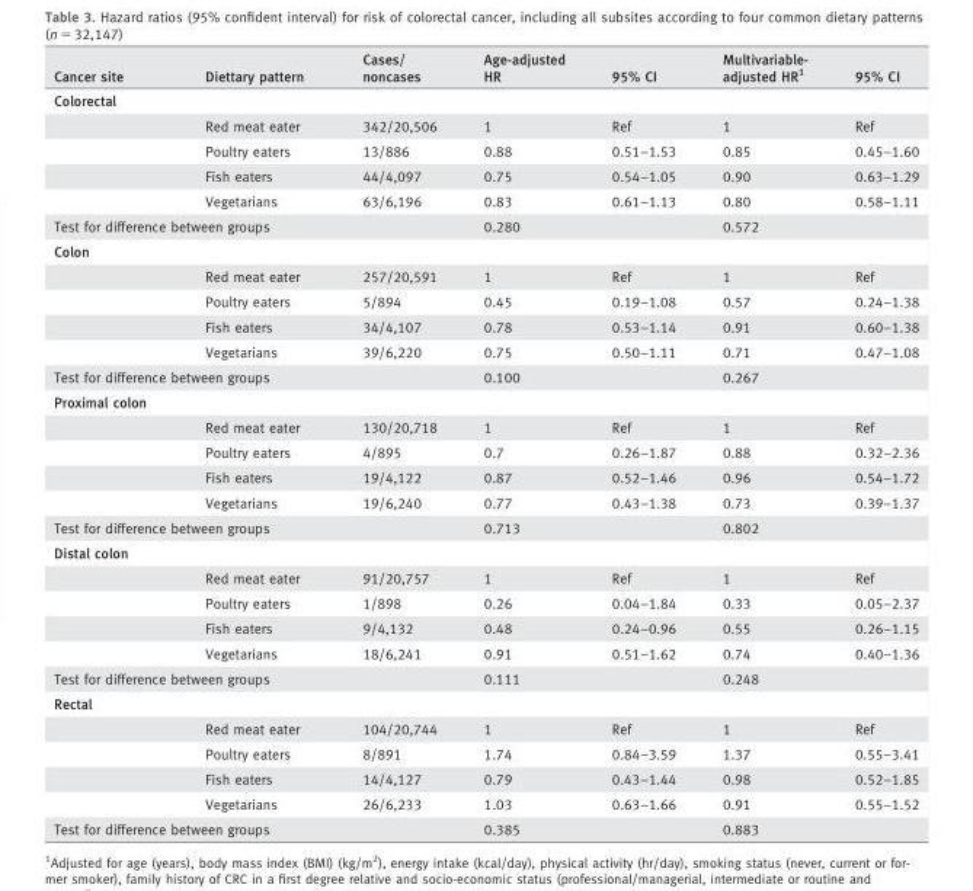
<table><thead><tr><td>Cancer site</td><td>Diettary pattern</td><td>Cases/ noncases</td><td>Age-adjusted HR</td><td>95% CI</td><td>Multivariable- adjusted HR1</td><td>95% CI</td></tr></thead><tbody><tr><td colspan="7">Colorectal</td></tr><tr><td></td><td>Red meat eater</td><td>342/20,506</td><td>1</td><td>Ref</td><td>1</td><td>Ref</td></tr><tr><td></td><td>Poultry eaters</td><td>13/886</td><td>0.88</td><td>0.51–1.53</td><td>0.85</td><td>0.45–1.60</td></tr><tr><td></td><td>Fish eaters</td><td>44/4,097</td><td>0.75</td><td>0.54–1.05</td><td>0.90</td><td>0.63–1.29</td></tr><tr><td></td><td>Vegetarians</td><td>63/6,196</td><td>0.83</td><td>0.61–1.13</td><td>0.80</td><td>0.58–1.11</td></tr><tr><td colspan="2">Test for difference between groups</td><td></td><td>0.280</td><td></td><td>0.572</td><td></td></tr><tr><td colspan="7">Colon</td></tr><tr><td></td><td>Red meat eater</td><td>257/20,591</td><td>1</td><td>Ref</td><td>1</td><td>Ref</td></tr><tr><td></td><td>Poultry eaters</td><td>5/894</td><td>0.45</td><td>0.19–1.08</td><td>0.57</td><td>0.24–1.38</td></tr><tr><td></td><td>Fish eaters</td><td>34/4,107</td><td>0.78</td><td>0.53–1.14</td><td>0.91</td><td>0.60–1.38</td></tr><tr><td></td><td>Vegetarians</td><td>39/6,220</td><td>0.75</td><td>0.50–1.11</td><td>0.71</td><td>0.47–1.08</td></tr><tr><td colspan="2">Test for difference between groups</td><td></td><td>0.100</td><td></td><td>0.267</td><td></td></tr><tr><td colspan="7">Proximal colon</td></tr><tr><td></td><td>Red meat eater</td><td>130/20,718</td><td>1</td><td>Ref</td><td>1</td><td>Ref</td></tr><tr><td></td><td>Poultry eaters</td><td>4/895</td><td>0.7</td><td>0.26–1.87</td><td>0.88</td><td>0.32–2.36</td></tr><tr><td></td><td>Fish eaters</td><td>19/4,122</td><td>0.87</td><td>0.52–1.46</td><td>0.96</td><td>0.54–1.72</td></tr><tr><td></td><td>Vegetarians</td><td>19/6,240</td><td>0.77</td><td>0.43–1.38</td><td>0.73</td><td>0.39–1.37</td></tr><tr><td colspan="2">Test for difference between groups</td><td></td><td>0.713</td><td></td><td>0.802</td><td></td></tr><tr><td colspan="7">Distal colon</td></tr><tr><td></td><td>Red meat eater</td><td>91/20,757</td><td>1</td><td>Ref</td><td>1</td><td>Ref</td></tr><tr><td></td><td>Poultry eaters</td><td>1/898</td><td>0.26</td><td>0.04–1.84</td><td>0.33</td><td>0.05–2.37</td></tr><tr><td></td><td>Fish eaters</td><td>9/4,132</td><td>0.48</td><td>0.24–0.96</td><td>0.55</td><td>0.26–1.15</td></tr><tr><td></td><td>Vegetarians</td><td>18/6,241</td><td>0.91</td><td>0.51–1.62</td><td>0.74</td><td>0.40–1.36</td></tr><tr><td colspan="2">Test for difference between groups</td><td></td><td>0.111</td><td></td><td>0.248</td><td></td></tr><tr><td colspan="7">Rectal</td></tr><tr><td></td><td>Red meat eater</td><td>104/20,744</td><td>1</td><td>Ref</td><td>1</td><td>Ref</td></tr><tr><td></td><td>Poultry eaters</td><td>8/891</td><td>1.74</td><td>0.84–3.59</td><td>1.37</td><td>0.55–3.41</td></tr><tr><td></td><td>Fish eaters</td><td>14/4,127</td><td>0.79</td><td>0.43–1.44</td><td>0.98</td><td>0.52–1.85</td></tr><tr><td></td><td>Vegetarians</td><td>26/6,233</td><td>1.03</td><td>0.63–1.66</td><td>0.91</td><td>0.55–1.52</td></tr><tr><td colspan="2">Test for difference between groups</td><td></td><td>0.385</td><td></td><td>0.883</td><td></td></tr></tbody></table>